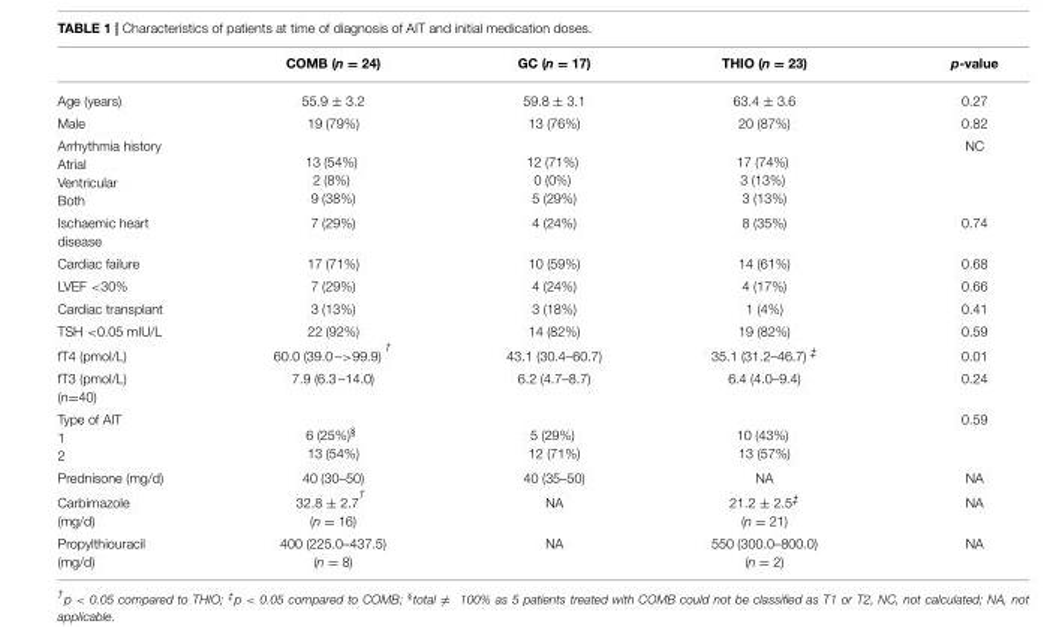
<table><thead><tr><td></td><td>COMB (n = 24)</td><td>GC (n = 17)</td><td>THIO (n = 23)</td><td>p-value</td></tr></thead><tbody><tr><td>Age (years)</td><td>55.9 ± 3.2</td><td>59.8 ± 3.1</td><td>63.4 ± 3.6</td><td>0.27</td></tr><tr><td>Male</td><td>19 (79%)</td><td>13 (76%)</td><td>20 (87%)</td><td>0.82</td></tr><tr><td>Arrhythmia history Atrial Ventricular Both</td><td>13 (54%) 2 (8%) 9 (38%)</td><td>12 (71%) 0 (0%) 5 (29%)</td><td>17 (74%) 3 (13%) 3 (13%)</td><td>NC</td></tr><tr><td>Ischaemic heart disease</td><td>7 (29%)</td><td>4 (24%)</td><td>8 (35%)</td><td>0.74</td></tr><tr><td>Cardiac failure</td><td>17 (71%)</td><td>10 (59%)</td><td>14 (61%)</td><td>0.68</td></tr><tr><td>LVEF &lt;30%</td><td>7 (29%)</td><td>4 (24%)</td><td>4 (17%)</td><td>0.66</td></tr><tr><td>Cardiac transplant</td><td>3 (13%)</td><td>3 (18%)</td><td>1 (4%)</td><td>0.41</td></tr><tr><td>TSH &lt;0.05 mIU/L</td><td>22 (92%)</td><td>14 (82%)</td><td>19 (82%)</td><td>0.59</td></tr><tr><td>fT4 (pmol/L)</td><td>60.0 (39.0 –&gt;99.9) <sup>†</sup></td><td>43.1 (30.4–60.7)</td><td>35.1 (31.2–46.7) <sup>‡</sup></td><td>0.01</td></tr><tr><td>fT3 (pmol/L) (n=40)</td><td>7.9 (6.3 –14.0)</td><td>6.2 (4.7–8.7)</td><td>6.4 (4.0–9.4)</td><td>0.24</td></tr><tr><td>Type of AIT 1 2</td><td>6 (25%)<sup>§</sup> 13 (54%)</td><td>5 (29%) 12 (71%)</td><td>10 (43%) 13 (57%)</td><td>0.59</td></tr><tr><td>Prednisone (mg/d)</td><td>40 (30–50)</td><td>40 (35–50)</td><td>NA</td><td>NA</td></tr><tr><td>Carbimazole (mg/d)</td><td>32.8 ± 2.7 <sup>†</sup> (n = 16)</td><td>NA</td><td>21.2 ± 2.5<sup>‡</sup> (n = 21)</td><td>NA</td></tr><tr><td>Propylthiouracil (mg/d)</td><td>400 (225.0–437.5) (n = 8)</td><td>NA</td><td>550 (300.0–800.0) (n = 2)</td><td>NA</td></tr></tbody></table>